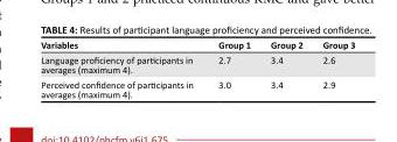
<table><thead><tr><td>Variables</td><td>Group 1</td><td>Group 2</td><td>Group 3</td></tr></thead><tbody><tr><td>Language proficiency of participants in averages (maximum 4).</td><td>2.7</td><td>3.4</td><td>2.6</td></tr><tr><td>Perceived confidence of participants in averages (maximum 4).</td><td>3.0</td><td>3.4</td><td>2.9</td></tr></tbody></table>